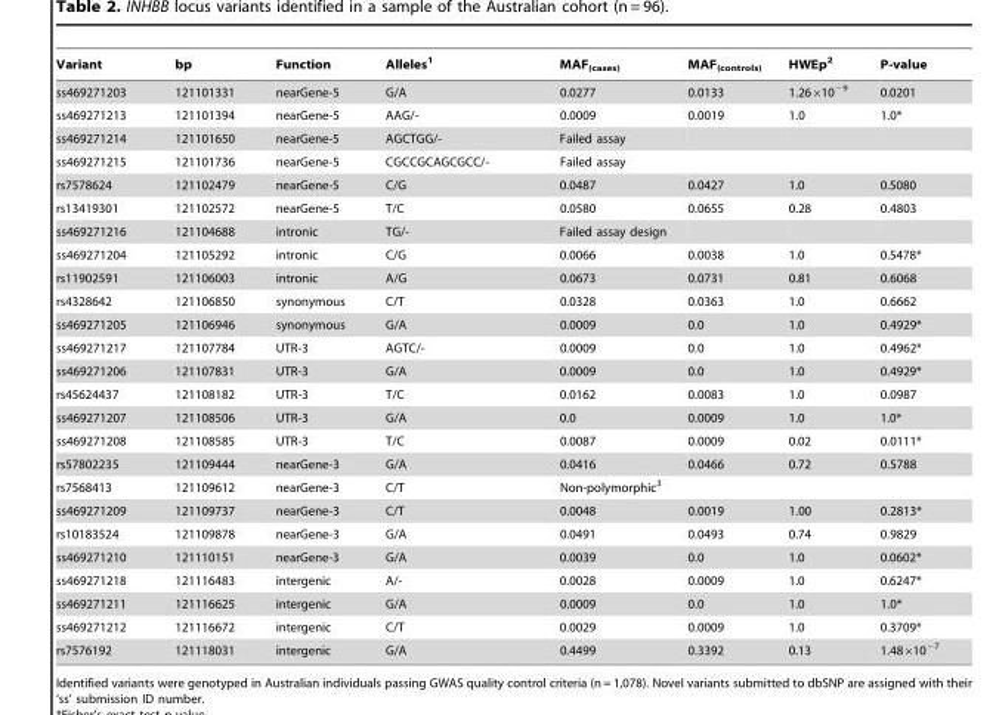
<table><thead><tr><td>Variant</td><td>bp</td><td>Function</td><td>Alleles<sup>1</sup></td><td>MAF<sub>(cases)</sub></td><td>MAF<sub>(controls)</sub></td><td>HWEp<sup>2</sup></td><td>P-value</td></tr></thead><tbody><tr><td>ss469271203</td><td>121101331</td><td>nearGene-5</td><td>G/A</td><td>0.0277</td><td>0.0133</td><td>1.26×10<sup>−9</sup></td><td>0.0201</td></tr><tr><td>ss469271213</td><td>121101394</td><td>nearGene-5</td><td>AAG/-</td><td>0.0009</td><td>0.0019</td><td>1.0</td><td>1.0*</td></tr><tr><td>ss469271214</td><td>121101650</td><td>nearGene-5</td><td>AGCTGG/-</td><td>Failed assay</td><td></td><td></td><td></td></tr><tr><td>ss469271215</td><td>121101736</td><td>nearGene-5</td><td>CGCCGCAGCGCC/-</td><td>Failed assay</td><td></td><td></td><td></td></tr><tr><td>rs7578624</td><td>121102479</td><td>nearGene-5</td><td>C/G</td><td>0.0487</td><td>0.0427</td><td>1.0</td><td>0.5080</td></tr><tr><td>rs13419301</td><td>121102572</td><td>nearGene-5</td><td>T/C</td><td>0.0580</td><td>0.0655</td><td>0.28</td><td>0.4803</td></tr><tr><td>ss469271216</td><td>121104688</td><td>intronic</td><td>TG/-</td><td>Failed assay design</td><td></td><td></td><td></td></tr><tr><td>ss469271204</td><td>121105292</td><td>intronic</td><td>C/G</td><td>0.0066</td><td>0.0038</td><td>1.0</td><td>0.5478*</td></tr><tr><td>rs11902591</td><td>121106003</td><td>intronic</td><td>A/G</td><td>0.0673</td><td>0.0731</td><td>0.81</td><td>0.6068</td></tr><tr><td>rs4328642</td><td>121106850</td><td>synonymous</td><td>C/T</td><td>0.0328</td><td>0.0363</td><td>1.0</td><td>0.6662</td></tr><tr><td>ss469271205</td><td>121106946</td><td>synonymous</td><td>G/A</td><td>0.0009</td><td>0.0</td><td>1.0</td><td>0.4929*</td></tr><tr><td>ss469271217</td><td>121107784</td><td>UTR-3</td><td>AGTC/-</td><td>0.0009</td><td>0.0</td><td>1.0</td><td>0.4962*</td></tr><tr><td>ss469271206</td><td>121107831</td><td>UTR-3</td><td>G/A</td><td>0.0009</td><td>0.0</td><td>1.0</td><td>0.4929*</td></tr><tr><td>rs45624437</td><td>121108182</td><td>UTR-3</td><td>T/C</td><td>0.0162</td><td>0.0083</td><td>1.0</td><td>0.0987</td></tr><tr><td>ss469271207</td><td>121108506</td><td>UTR-3</td><td>G/A</td><td>0.0</td><td>0.0009</td><td>1.0</td><td>1.0*</td></tr><tr><td>ss469271208</td><td>121108585</td><td>UTR-3</td><td>T/C</td><td>0.0087</td><td>0.0009</td><td>0.02</td><td>0.0111*</td></tr><tr><td>rs57802235</td><td>121109444</td><td>nearGene-3</td><td>G/A</td><td>0.0416</td><td>0.0466</td><td>0.72</td><td>0.5788</td></tr><tr><td>rs7568413</td><td>121109612</td><td>nearGene-3</td><td>C/T</td><td>Non-polymorphic<sup>3</sup></td><td></td><td></td><td></td></tr><tr><td>ss469271209</td><td>121109737</td><td>nearGene-3</td><td>C/T</td><td>0.0048</td><td>0.0019</td><td>1.00</td><td>0.2813*</td></tr><tr><td>rs10183524</td><td>121109878</td><td>nearGene-3</td><td>G/A</td><td>0.0491</td><td>0.0493</td><td>0.74</td><td>0.9829</td></tr><tr><td>ss469271210</td><td>121110151</td><td>nearGene-3</td><td>G/A</td><td>0.0039</td><td>0.0</td><td>1.0</td><td>0.0602*</td></tr><tr><td>ss469271218</td><td>121116483</td><td>intergenic</td><td>A/-</td><td>0.0028</td><td>0.0009</td><td>1.0</td><td>0.6247*</td></tr><tr><td>ss469271211</td><td>121116625</td><td>intergenic</td><td>G/A</td><td>0.0009</td><td>0.0</td><td>1.0</td><td>1.0*</td></tr><tr><td>ss469271212</td><td>121116672</td><td>intergenic</td><td>C/T</td><td>0.0029</td><td>0.0009</td><td>1.0</td><td>0.3709*</td></tr><tr><td>rs7576192</td><td>121118031</td><td>intergenic</td><td>G/A</td><td>0.4499</td><td>0.3392</td><td>0.13</td><td>1.48×10<sup>−7</sup></td></tr></tbody></table>